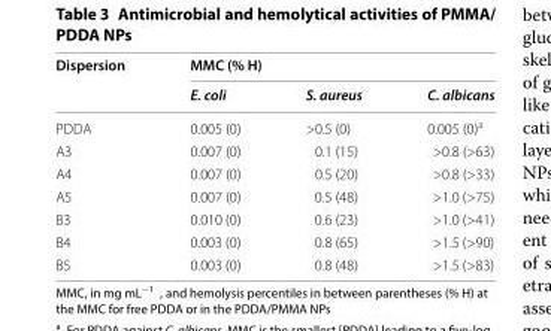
<table><thead><tr><td rowspan="2">Dispersion</td><td colspan="3">MMC (% H)</td></tr><tr><td>E. coli</td><td>S. aureus</td><td>C. albicans</td></tr></thead><tbody><tr><td>PDDA</td><td>0.005 (0)</td><td>&gt;0.5 (0)</td><td>0.005 (0)<sup>a</sup></td></tr><tr><td>A3</td><td>0.007 (0)</td><td>0.1 (15)</td><td>&gt;0.8 (&gt;63)</td></tr><tr><td>A4</td><td>0.007 (0)</td><td>0.5 (20)</td><td>&gt;0.8 (&gt;33)</td></tr><tr><td>A5</td><td>0.007 (0)</td><td>0.5 (48)</td><td>&gt;1.0 (&gt;75)</td></tr><tr><td>B3</td><td>0.010 (0)</td><td>0.6 (23)</td><td>&gt;1.0 (&gt;41)</td></tr><tr><td>B4</td><td>0.003 (0)</td><td>0.8 (65)</td><td>&gt;1.5 (&gt;90)</td></tr><tr><td>B5</td><td>0.003 (0)</td><td>0.8 (48)</td><td>&gt;1.5 (&gt;83)</td></tr></tbody></table>